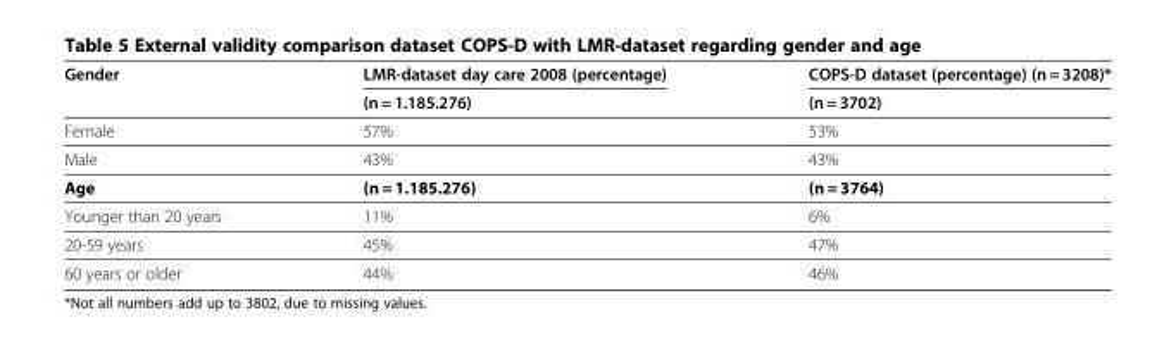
<table><thead><tr><td rowspan="2">Gender</td><td rowspan="2">LMR-dataset day care 2008 (percentage) (n = 1.185.276)</td><td rowspan="2">COPS-D dataset (percentage) (n = 3208)* (n = 3702)</td></tr><tr></tr></thead><tbody><tr><td>Female</td><td>57%</td><td>53%</td></tr><tr><td>Male</td><td>43%</td><td>43%</td></tr><tr><td>Age</td><td>(n = 1.185.276)</td><td>(n = 3764)</td></tr><tr><td>Younger than 20 years</td><td>11%</td><td>6%</td></tr><tr><td>20-59 years</td><td>45%</td><td>47%</td></tr><tr><td>60 years or older</td><td>44%</td><td>46%</td></tr></tbody></table>